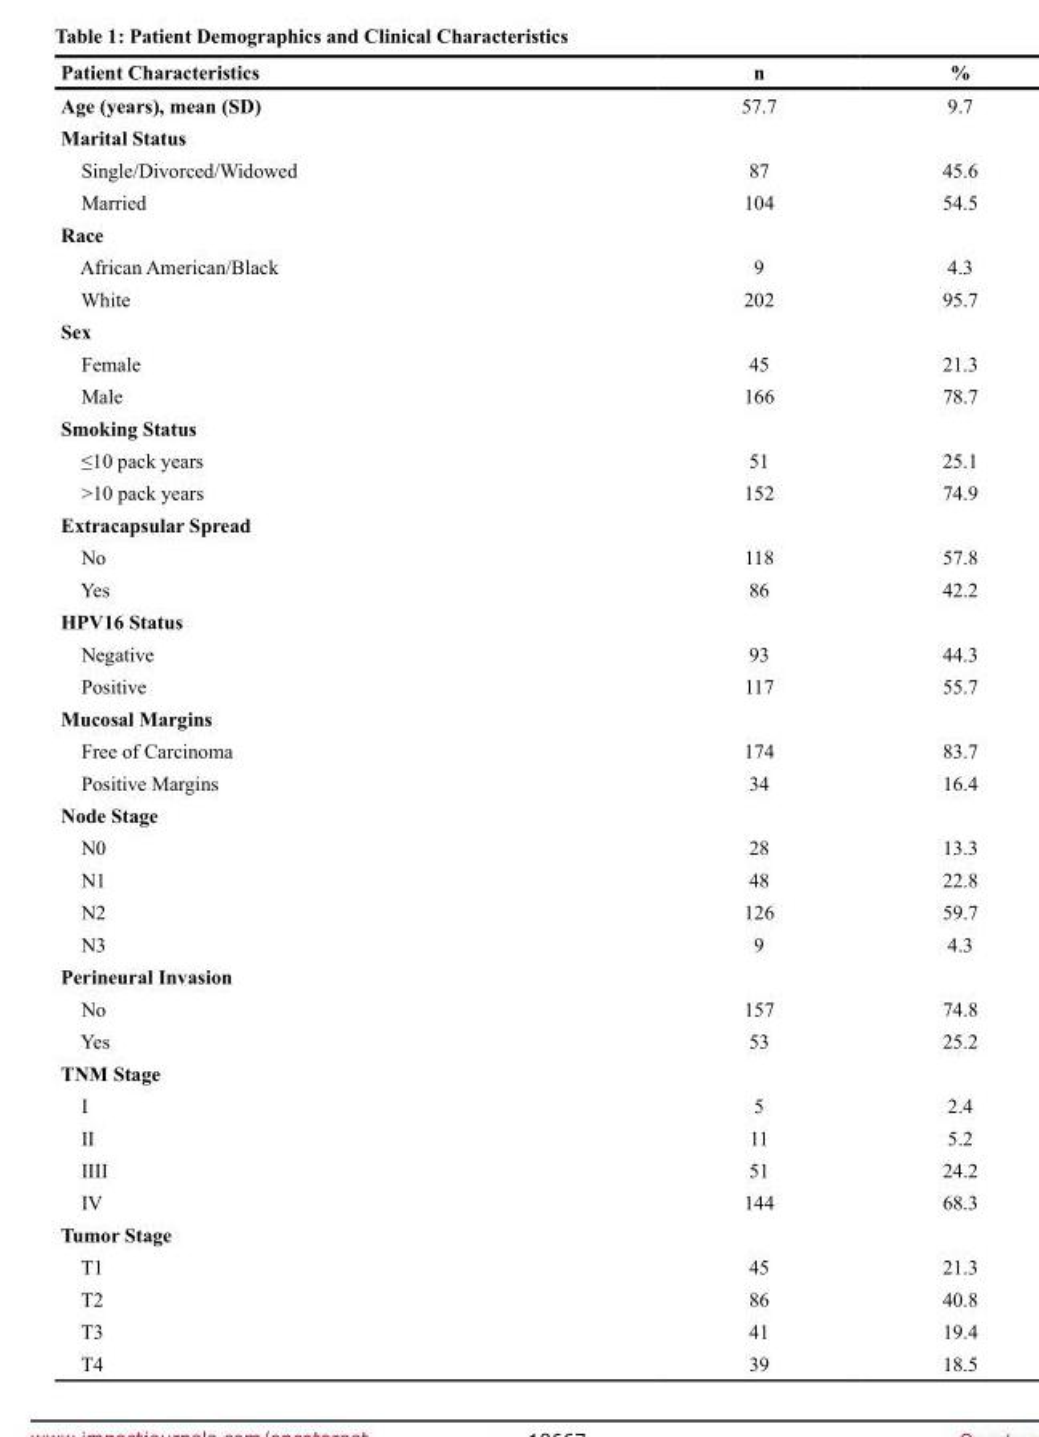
<table><thead><tr><td>Patient Characteristics</td><td>n</td><td>%</td></tr></thead><tbody><tr><td>Age (years), mean (SD)</td><td>57.7</td><td>9.7</td></tr><tr><td colspan="3">Marital Status</td></tr><tr><td>Single/Divorced/Widowed</td><td>87</td><td>45.6</td></tr><tr><td>Married</td><td>104</td><td>54.5</td></tr><tr><td colspan="3">Race</td></tr><tr><td>African American/Black</td><td>9</td><td>4.3</td></tr><tr><td>White</td><td>202</td><td>95.7</td></tr><tr><td colspan="3">Sex</td></tr><tr><td>Female</td><td>45</td><td>21.3</td></tr><tr><td>Male</td><td>166</td><td>78.7</td></tr><tr><td colspan="3">Smoking Status</td></tr><tr><td>≤10 pack years</td><td>51</td><td>25.1</td></tr><tr><td>&gt;10 pack years</td><td>152</td><td>74.9</td></tr><tr><td colspan="3">Extracapsular Spread</td></tr><tr><td>No</td><td>118</td><td>57.8</td></tr><tr><td>Yes</td><td>86</td><td>42.2</td></tr><tr><td colspan="3">HPV16 Status</td></tr><tr><td>Negative</td><td>93</td><td>44.3</td></tr><tr><td>Positive</td><td>117</td><td>55.7</td></tr><tr><td colspan="3">Mucosal Margins</td></tr><tr><td>Free of Carcinoma</td><td>174</td><td>83.7</td></tr><tr><td>Positive Margins</td><td>34</td><td>16.4</td></tr><tr><td colspan="3">Node Stage</td></tr><tr><td>N0</td><td>28</td><td>13.3</td></tr><tr><td>N1</td><td>48</td><td>22.8</td></tr><tr><td>N2</td><td>126</td><td>59.7</td></tr><tr><td>N3</td><td>9</td><td>4.3</td></tr><tr><td colspan="3">Perineural Invasion</td></tr><tr><td>No</td><td>157</td><td>74.8</td></tr><tr><td>Yes</td><td>53</td><td>25.2</td></tr><tr><td colspan="3">TNM Stage</td></tr><tr><td>I</td><td>5</td><td>2.4</td></tr><tr><td>II</td><td>11</td><td>5.2</td></tr><tr><td>IIII</td><td>51</td><td>24.2</td></tr><tr><td>IV</td><td>144</td><td>68.3</td></tr><tr><td colspan="3">Tumor Stage</td></tr><tr><td>T1</td><td>45</td><td>21.3</td></tr><tr><td>T2</td><td>86</td><td>40.8</td></tr><tr><td>T3</td><td>41</td><td>19.4</td></tr><tr><td>T4</td><td>39</td><td>18.5</td></tr></tbody></table>